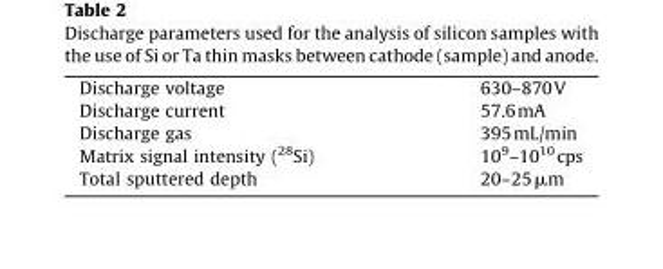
<table><tbody><tr><td>Discharge voltage</td><td>630–870V</td></tr><tr><td>Discharge current</td><td>57.6mA</td></tr><tr><td>Discharge gas</td><td>395mL/min</td></tr><tr><td>Matrix signal intensity (<sup>28</sup>Si)</td><td>10<sup>9</sup>–10<sup>10</sup>cps</td></tr><tr><td>Total sputtered depth</td><td>20–25μm</td></tr></tbody></table>